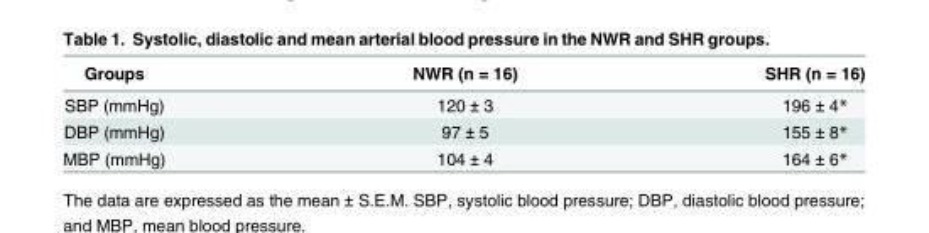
<table><thead><tr><td>Groups</td><td>NWR (n = 16)</td><td>SHR (n = 16)</td></tr></thead><tbody><tr><td>SBP (mmHg)</td><td>120 ± 3</td><td>196 ± 4*</td></tr><tr><td>DBP (mmHg)</td><td>97 ± 5</td><td>155 ± 8*</td></tr><tr><td>MBP (mmHg)</td><td>104 ± 4</td><td>164 ± 6*</td></tr></tbody></table>